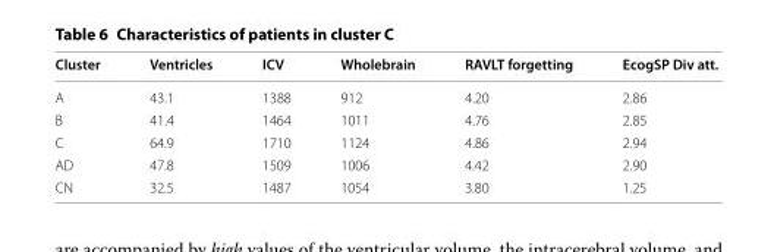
<table><thead><tr><td>Cluster</td><td>Ventricles</td><td>ICV</td><td>Wholebrain</td><td>RAVLT forgetting</td><td>EcogSP Div att.</td></tr></thead><tbody><tr><td>A</td><td>43.1</td><td>1388</td><td>912</td><td>4.20</td><td>2.86</td></tr><tr><td>B</td><td>41.4</td><td>1464</td><td>1011</td><td>4.76</td><td>2.85</td></tr><tr><td>C</td><td>64.9</td><td>1710</td><td>1124</td><td>4.86</td><td>2.94</td></tr><tr><td>AD</td><td>47.8</td><td>1509</td><td>1006</td><td>4.42</td><td>2.90</td></tr><tr><td>CN</td><td>32.5</td><td>1487</td><td>1054</td><td>3.80</td><td>1.25</td></tr></tbody></table>